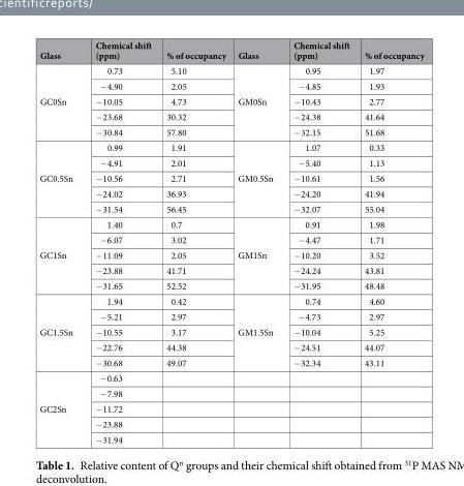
<table><thead><tr><td>Glass</td><td>Chemical shift (ppm)</td><td>% of occupancy</td><td>Glass</td><td>Chemical shift (ppm)</td><td>% of occupancy</td></tr></thead><tbody><tr><td rowspan="5">GC0Sn</td><td>0.73</td><td>5.10</td><td rowspan="5">GM0Sn</td><td>0.95</td><td>1.97</td></tr><tr><td>−4.90</td><td>2.05</td><td>−4.85</td><td>1.93</td></tr><tr><td>−10.05</td><td>4.73</td><td>−10.43</td><td>2.77</td></tr><tr><td>−23.68</td><td>30.32</td><td>−24.38</td><td>41.64</td></tr><tr><td>−30.84</td><td>57.80</td><td>−32.15</td><td>51.68</td></tr><tr><td rowspan="5">GC0.5Sn</td><td>0.99</td><td>1.91</td><td rowspan="5">GM0.5Sn</td><td>1.07</td><td>0.33</td></tr><tr><td>−4.91</td><td>2.01</td><td>−5.40</td><td>1.13</td></tr><tr><td>−10.56</td><td>2.71</td><td>−10.61</td><td>1.56</td></tr><tr><td>−24.02</td><td>36.93</td><td>−24.20</td><td>41.94</td></tr><tr><td>−31.54</td><td>56.45</td><td>−32.07</td><td>55.04</td></tr><tr><td rowspan="5">GC1Sn</td><td>1.40</td><td>0.7</td><td rowspan="5">GM1Sn</td><td>0.91</td><td>1.98</td></tr><tr><td>−6.07</td><td>3.02</td><td>−4.47</td><td>1.71</td></tr><tr><td>−11.09</td><td>2.05</td><td>−10.20</td><td>3.52</td></tr><tr><td>−23.88</td><td>41.71</td><td>−24.24</td><td>43.81</td></tr><tr><td>−31.65</td><td>52.52</td><td>−31.95</td><td>48.48</td></tr><tr><td rowspan="5">GC1.5Sn</td><td>1.94</td><td>0.42</td><td rowspan="5">GM1.5Sn</td><td>0.74</td><td>4.60</td></tr><tr><td>−5.21</td><td>2.97</td><td>−4.73</td><td>2.97</td></tr><tr><td>−10.55</td><td>3.17</td><td>−10.04</td><td>5.25</td></tr><tr><td>−22.76</td><td>44.38</td><td>−24.51</td><td>44.07</td></tr><tr><td>−30.68</td><td>49.07</td><td>−32.34</td><td>43.11</td></tr><tr><td rowspan="5">GC2Sn</td><td>−0.63</td><td></td><td></td><td></td><td></td></tr><tr><td>−7.98</td><td></td><td></td><td></td><td></td></tr><tr><td>−11.72</td><td></td><td></td><td></td><td></td></tr><tr><td>−23.88</td><td></td><td></td><td></td><td></td></tr><tr><td>−31.94</td><td></td><td></td><td></td><td></td></tr></tbody></table>